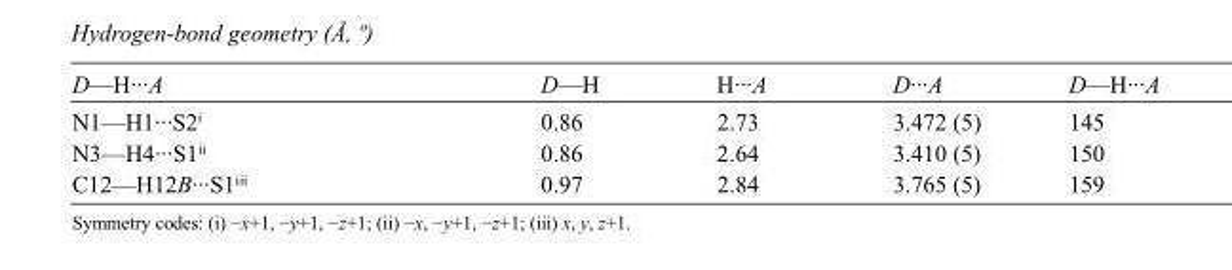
<table><tbody><tr><td>D—H···A</td><td>D—H</td><td>H···A</td><td>D···A</td><td>D—H···A</td></tr><tr><td>N1—H1···S2<sup>i</sup></td><td>0.86</td><td>2.73</td><td>3.472 (5)</td><td>145</td></tr><tr><td>N3—H4···S1<sup>ii</sup></td><td>0.86</td><td>2.64</td><td>3.410 (5)</td><td>150</td></tr><tr><td>C12—H12B···S1<sup>iii</sup></td><td>0.97</td><td>2.84</td><td>3.765 (5)</td><td>159</td></tr></tbody></table>